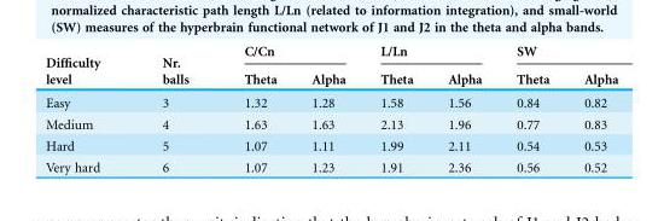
<table><thead><tr><td rowspan="2">Difficulty level</td><td rowspan="2">Nr. balls</td><td colspan="2">C/Cn</td><td colspan="2">L/Ln</td><td colspan="2">SW</td></tr><tr><td>Theta</td><td>Alpha</td><td>Theta</td><td>Alpha</td><td>Theta</td><td>Alpha</td></tr></thead><tbody><tr><td>Easy</td><td>3</td><td>1.32</td><td>1.28</td><td>1.58</td><td>1.56</td><td>0.84</td><td>0.82</td></tr><tr><td>Medium</td><td>4</td><td>1.63</td><td>1.63</td><td>2.13</td><td>1.96</td><td>0.77</td><td>0.83</td></tr><tr><td>Hard</td><td>5</td><td>1.07</td><td>1.11</td><td>1.99</td><td>2.11</td><td>0.54</td><td>0.53</td></tr><tr><td>Very hard</td><td>6</td><td>1.07</td><td>1.23</td><td>1.91</td><td>2.36</td><td>0.56</td><td>0.52</td></tr></tbody></table>